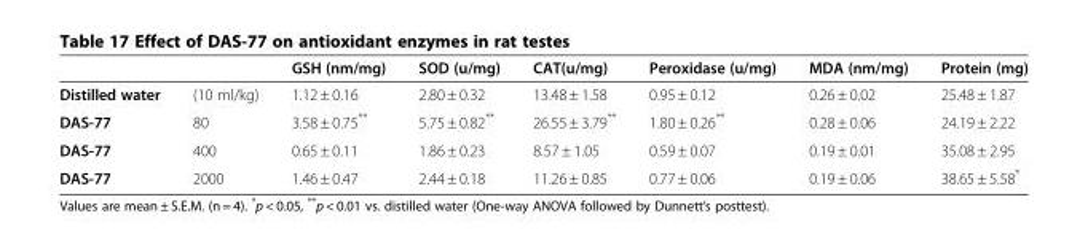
<table><thead><tr><td></td><td></td><td>GSH (nm/mg)</td><td>SOD (u/mg)</td><td>CAT(u/mg)</td><td>Peroxidase (u/mg)</td><td>MDA (nm/mg)</td><td>Protein (mg)</td></tr></thead><tbody><tr><td>Distilled water</td><td>(10 ml/kg)</td><td>1.12 ± 0.16</td><td>2.80 ± 0.32</td><td>13.48 ± 1.58</td><td>0.95 ± 0.12</td><td>0.26 ± 0.02</td><td>25.48 ± 1.87</td></tr><tr><td>DAS-77</td><td>80</td><td>3.58 ± 0.75**</td><td>5.75 ± 0.82**</td><td>26.55 ± 3.79**</td><td>1.80 ± 0.26**</td><td>0.28 ± 0.06</td><td>24.19 ± 2.22</td></tr><tr><td>DAS-77</td><td>400</td><td>0.65 ± 0.11</td><td>1.86 ± 0.23</td><td>8.57 ± 1.05</td><td>0.59 ± 0.07</td><td>0.19 ± 0.01</td><td>35.08 ± 2.95</td></tr><tr><td>DAS-77</td><td>2000</td><td>1.46 ± 0.47</td><td>2.44 ± 0.18</td><td>11.26 ± 0.85</td><td>0.77 ± 0.06</td><td>0.19 ± 0.06</td><td>38.65 ± 5.58*</td></tr></tbody></table>